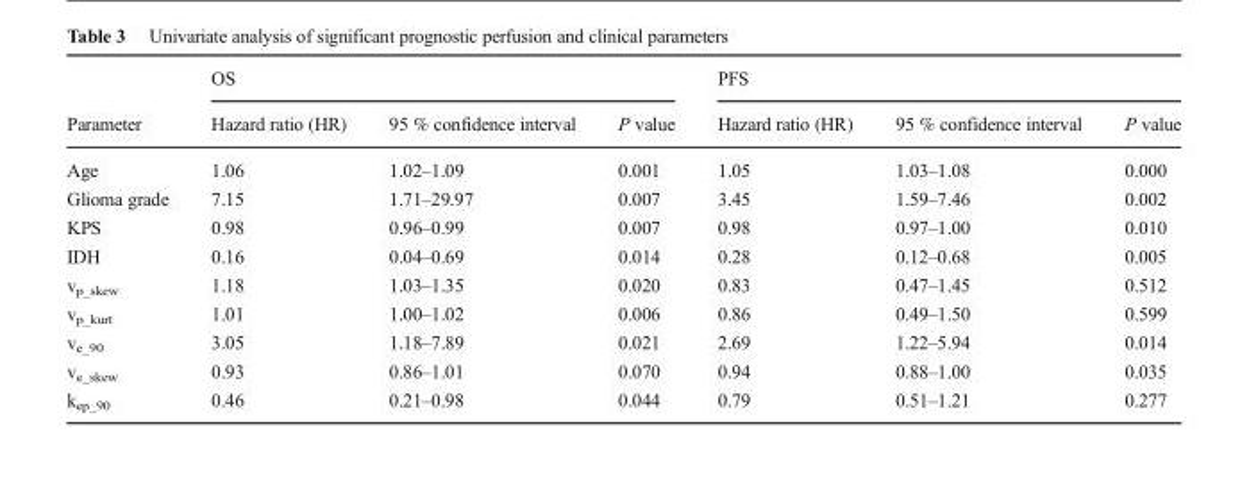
<table><thead><tr><td rowspan="2">Parameter</td><td colspan="3">OS</td><td colspan="3">PFS</td></tr><tr><td>Hazard ratio (HR)</td><td>95 % confidence interval</td><td>P value</td><td>Hazard ratio (HR)</td><td>95 % confidence interval</td><td>P value</td></tr></thead><tbody><tr><td>Age</td><td>1.06</td><td>1.02–1.09</td><td>0.001</td><td>1.05</td><td>1.03–1.08</td><td>0.000</td></tr><tr><td>Glioma grade</td><td>7.15</td><td>1.71–29.97</td><td>0.007</td><td>3.45</td><td>1.59–7.46</td><td>0.002</td></tr><tr><td>KPS</td><td>0.98</td><td>0.96–0.99</td><td>0.007</td><td>0.98</td><td>0.97–1.00</td><td>0.010</td></tr><tr><td>IDH</td><td>0.16</td><td>0.04–0.69</td><td>0.014</td><td>0.28</td><td>0.12–0.68</td><td>0.005</td></tr><tr><td>v<sub>p_skew</sub></td><td>1.18</td><td>1.03–1.35</td><td>0.020</td><td>0.83</td><td>0.47–1.45</td><td>0.512</td></tr><tr><td>v<sub>p_kurt</sub></td><td>1.01</td><td>1.00–1.02</td><td>0.006</td><td>0.86</td><td>0.49–1.50</td><td>0.599</td></tr><tr><td>v<sub>e_90</sub></td><td>3.05</td><td>1.18–7.89</td><td>0.021</td><td>2.69</td><td>1.22–5.94</td><td>0.014</td></tr><tr><td>v<sub>e_skew</sub></td><td>0.93</td><td>0.86–1.01</td><td>0.070</td><td>0.94</td><td>0.88–1.00</td><td>0.035</td></tr><tr><td>k<sub>ep_90</sub></td><td>0.46</td><td>0.21–0.98</td><td>0.044</td><td>0.79</td><td>0.51–1.21</td><td>0.277</td></tr></tbody></table>